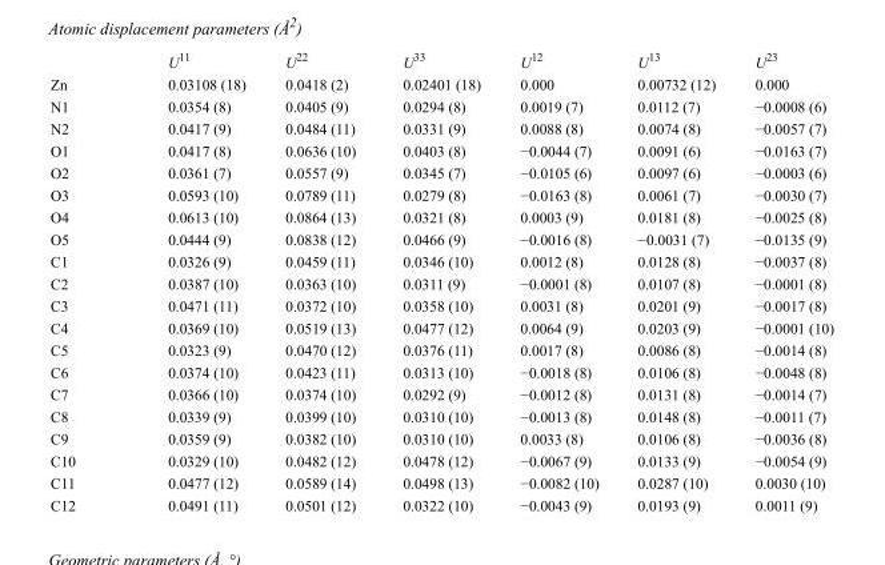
<table><thead><tr><td></td><td>U<sup>11</sup></td><td>U<sup>22</sup></td><td>U<sup>33</sup></td><td>U<sup>12</sup></td><td>U<sup>13</sup></td><td>U<sup>23</sup></td></tr></thead><tbody><tr><td>Zn</td><td>0.03108 (18)</td><td>0.0418 (2)</td><td>0.02401 (18)</td><td>0.000</td><td>0.00732 (12)</td><td>0.000</td></tr><tr><td>N1</td><td>0.0354 (8)</td><td>0.0405 (9)</td><td>0.0294 (8)</td><td>0.0019 (7)</td><td>0.0112 (7)</td><td>−0.0008 (6)</td></tr><tr><td>N2</td><td>0.0417 (9)</td><td>0.0484 (11)</td><td>0.0331 (9)</td><td>0.0088 (8)</td><td>0.0074 (8)</td><td>−0.0057 (7)</td></tr><tr><td>O1</td><td>0.0417 (8)</td><td>0.0636 (10)</td><td>0.0403 (8)</td><td>−0.0044 (7)</td><td>0.0091 (6)</td><td>−0.0163 (7)</td></tr><tr><td>O2</td><td>0.0361 (7)</td><td>0.0557 (9)</td><td>0.0345 (7)</td><td>−0.0105 (6)</td><td>0.0097 (6)</td><td>−0.0003 (6)</td></tr><tr><td>O3</td><td>0.0593 (10)</td><td>0.0789 (11)</td><td>0.0279 (8)</td><td>−0.0163 (8)</td><td>0.0061 (7)</td><td>−0.0030 (7)</td></tr><tr><td>O4</td><td>0.0613 (10)</td><td>0.0864 (13)</td><td>0.0321 (8)</td><td>0.0003 (9)</td><td>0.0181 (8)</td><td>−0.0025 (8)</td></tr><tr><td>O5</td><td>0.0444 (9)</td><td>0.0838 (12)</td><td>0.0466 (9)</td><td>−0.0016 (8)</td><td>−0.0031 (7)</td><td>−0.0135 (9)</td></tr><tr><td>C1</td><td>0.0326 (9)</td><td>0.0459 (11)</td><td>0.0346 (10)</td><td>0.0012 (8)</td><td>0.0128 (8)</td><td>−0.0037 (8)</td></tr><tr><td>C2</td><td>0.0387 (10)</td><td>0.0363 (10)</td><td>0.0311 (9)</td><td>−0.0001 (8)</td><td>0.0107 (8)</td><td>−0.0001 (8)</td></tr><tr><td>C3</td><td>0.0471 (11)</td><td>0.0372 (10)</td><td>0.0358 (10)</td><td>0.0031 (8)</td><td>0.0201 (9)</td><td>−0.0017 (8)</td></tr><tr><td>C4</td><td>0.0369 (10)</td><td>0.0519 (13)</td><td>0.0477 (12)</td><td>0.0064 (9)</td><td>0.0203 (9)</td><td>−0.0001 (10)</td></tr><tr><td>C5</td><td>0.0323 (9)</td><td>0.0470 (12)</td><td>0.0376 (11)</td><td>0.0017 (8)</td><td>0.0086 (8)</td><td>−0.0014 (8)</td></tr><tr><td>C6</td><td>0.0374 (10)</td><td>0.0423 (11)</td><td>0.0313 (10)</td><td>−0.0018 (8)</td><td>0.0106 (8)</td><td>−0.0048 (8)</td></tr><tr><td>C7</td><td>0.0366 (10)</td><td>0.0374 (10)</td><td>0.0292 (9)</td><td>−0.0012 (8)</td><td>0.0131 (8)</td><td>−0.0014 (7)</td></tr><tr><td>C8</td><td>0.0339 (9)</td><td>0.0399 (10)</td><td>0.0310 (10)</td><td>−0.0013 (8)</td><td>0.0148 (8)</td><td>−0.0011 (7)</td></tr><tr><td>C9</td><td>0.0359 (9)</td><td>0.0382 (10)</td><td>0.0310 (10)</td><td>0.0033 (8)</td><td>0.0106 (8)</td><td>−0.0036 (8)</td></tr><tr><td>C10</td><td>0.0329 (10)</td><td>0.0482 (12)</td><td>0.0478 (12)</td><td>−0.0067 (9)</td><td>0.0133 (9)</td><td>−0.0054 (9)</td></tr><tr><td>C11</td><td>0.0477 (12)</td><td>0.0589 (14)</td><td>0.0498 (13)</td><td>−0.0082 (10)</td><td>0.0287 (10)</td><td>0.0030 (10)</td></tr><tr><td>C12</td><td>0.0491 (11)</td><td>0.0501 (12)</td><td>0.0322 (10)</td><td>−0.0043 (9)</td><td>0.0193 (9)</td><td>0.0011 (9)</td></tr></tbody></table>